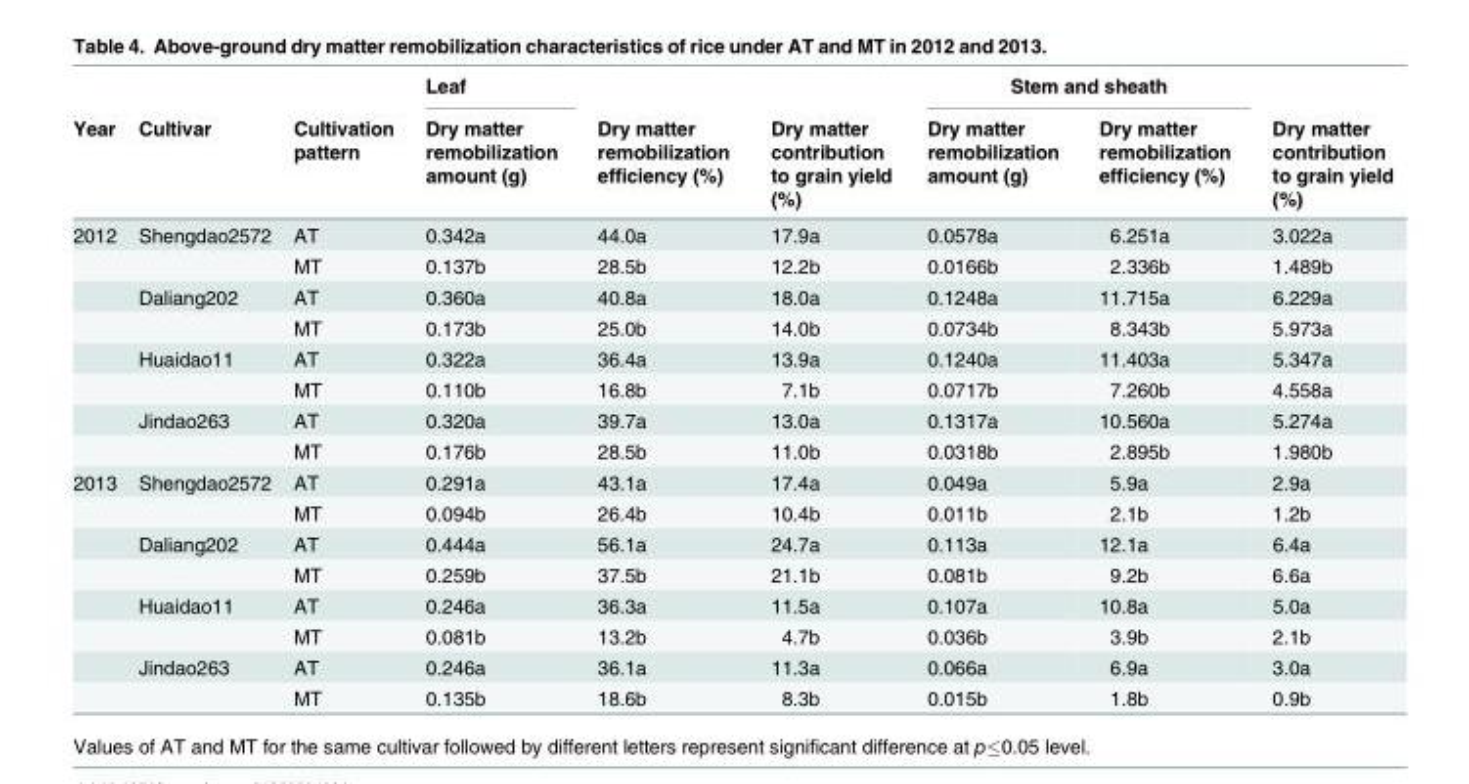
<table><thead><tr><td rowspan="2">Year</td><td rowspan="2">Cultivar</td><td rowspan="2">Cultivation pattern</td><td rowspan="2">Leaf Dry matter remobilization amount (g)</td><td rowspan="2">Dry matter remobilization efficiency (%)</td><td rowspan="2">Dry matter contribution to grain yield (%)</td><td colspan="2">Stem and sheath</td><td rowspan="2">Dry matter contribution to grain yield (%)</td></tr><tr><td>Dry matter remobilization amount (g)</td><td>Dry matter remobilization efficiency (%)</td></tr></thead><tbody><tr><td rowspan="8">2012</td><td>Shengdao2572</td><td>AT</td><td>0.342a</td><td>44.0a</td><td>17.9a</td><td>0.0578a</td><td>6.251a</td><td>3.022a</td></tr><tr><td></td><td>MT</td><td>0.137b</td><td>28.5b</td><td>12.2b</td><td>0.0166b</td><td>2.336b</td><td>1.489b</td></tr><tr><td>Daliang202</td><td>AT</td><td>0.360a</td><td>40.8a</td><td>18.0a</td><td>0.1248a</td><td>11.715a</td><td>6.229a</td></tr><tr><td></td><td>MT</td><td>0.173b</td><td>25.0b</td><td>14.0b</td><td>0.0734b</td><td>8.343b</td><td>5.973a</td></tr><tr><td>Huaidao11</td><td>AT</td><td>0.322a</td><td>36.4a</td><td>13.9a</td><td>0.1240a</td><td>11.403a</td><td>5.347a</td></tr><tr><td></td><td>MT</td><td>0.110b</td><td>16.8b</td><td>7.1b</td><td>0.0717b</td><td>7.260b</td><td>4.558a</td></tr><tr><td>Jindao263</td><td>AT</td><td>0.320a</td><td>39.7a</td><td>13.0a</td><td>0.1317a</td><td>10.560a</td><td>5.274a</td></tr><tr><td></td><td>MT</td><td>0.176b</td><td>28.5b</td><td>11.0b</td><td>0.0318b</td><td>2.895b</td><td>1.980b</td></tr><tr><td rowspan="8">2013</td><td>Shengdao2572</td><td>AT</td><td>0.291a</td><td>43.1a</td><td>17.4a</td><td>0.049a</td><td>5.9a</td><td>2.9a</td></tr><tr><td></td><td>MT</td><td>0.094b</td><td>26.4b</td><td>10.4b</td><td>0.011b</td><td>2.1b</td><td>1.2b</td></tr><tr><td>Daliang202</td><td>AT</td><td>0.444a</td><td>56.1a</td><td>24.7a</td><td>0.113a</td><td>12.1a</td><td>6.4a</td></tr><tr><td></td><td>MT</td><td>0.259b</td><td>37.5b</td><td>21.1b</td><td>0.081b</td><td>9.2b</td><td>6.6a</td></tr><tr><td>Huaidao11</td><td>AT</td><td>0.246a</td><td>36.3a</td><td>11.5a</td><td>0.107a</td><td>10.8a</td><td>5.0a</td></tr><tr><td></td><td>MT</td><td>0.081b</td><td>13.2b</td><td>4.7b</td><td>0.036b</td><td>3.9b</td><td>2.1b</td></tr><tr><td>Jindao263</td><td>AT</td><td>0.246a</td><td>36.1a</td><td>11.3a</td><td>0.066a</td><td>6.9a</td><td>3.0a</td></tr><tr><td></td><td>MT</td><td>0.135b</td><td>18.6b</td><td>8.3b</td><td>0.015b</td><td>1.8b</td><td>0.9b</td></tr></tbody></table>